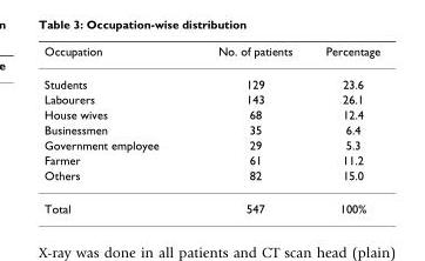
<table><thead><tr><td>Occupation</td><td>No. of patients</td><td>Percentage</td></tr></thead><tbody><tr><td>Students</td><td>129</td><td>23.6</td></tr><tr><td>Labourers</td><td>143</td><td>26.1</td></tr><tr><td>House wives</td><td>68</td><td>12.4</td></tr><tr><td>Businessmen</td><td>35</td><td>6.4</td></tr><tr><td>Government employee</td><td>29</td><td>5.3</td></tr><tr><td>Farmer</td><td>61</td><td>11.2</td></tr><tr><td>Others</td><td>82</td><td>15.0</td></tr><tr><td>Total</td><td>547</td><td>100%</td></tr></tbody></table>